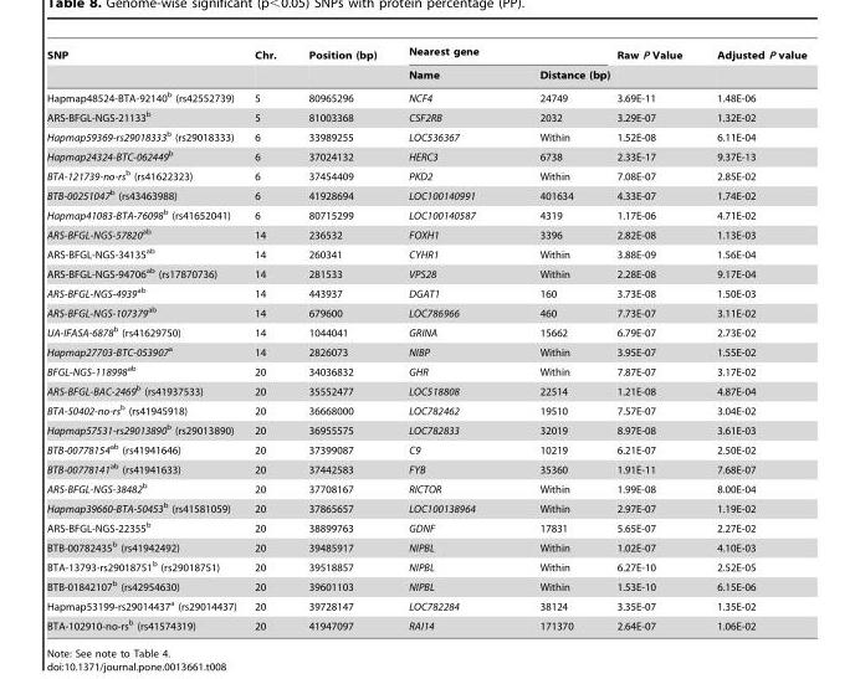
<table><thead><tr><td rowspan="2">SNP</td><td rowspan="2">Chr.</td><td rowspan="2">Position (bp)</td><td colspan="2">Nearest gene</td><td rowspan="2">Raw P Value</td><td rowspan="2">Adjusted P value</td></tr><tr><td>Name</td><td>Distance (bp)</td></tr></thead><tbody><tr><td>Hapmap48524-BTA-92140<sup>b</sup> (rs42552739)</td><td>5</td><td>80965296</td><td>NCF4</td><td>24749</td><td>3.69E-11</td><td>1.48E-06</td></tr><tr><td>ARS-BFGL-NGS-21133<sup>b</sup></td><td>5</td><td>81003368</td><td>CSF2RB</td><td>2032</td><td>3.29E-07</td><td>1.32E-02</td></tr><tr><td>Hapmap59369-rs29018333<sup>b</sup> (rs29018333)</td><td>6</td><td>33989255</td><td>LOC536367</td><td>Within</td><td>1.52E-08</td><td>6.11E-04</td></tr><tr><td>Hapmap24324-BTC-062449<sup>b</sup></td><td>6</td><td>37024132</td><td>HERC3</td><td>6738</td><td>2.33E-17</td><td>9.37E-13</td></tr><tr><td>BTA-121739-no-rs<sup>b</sup> (rs41622323)</td><td>6</td><td>37454409</td><td>PKD2</td><td>Within</td><td>7.08E-07</td><td>2.85E-02</td></tr><tr><td>BTB-00251047<sup>b</sup> (rs43463988)</td><td>6</td><td>41928694</td><td>LOC100140991</td><td>401634</td><td>4.33E-07</td><td>1.74E-02</td></tr><tr><td>Hapmap41083-BTA-76098<sup>b</sup> (rs41652041)</td><td>6</td><td>80715299</td><td>LOC100140587</td><td>4319</td><td>1.17E-06</td><td>4.71E-02</td></tr><tr><td>ARS-BFGL-NGS-57820<sup>ab</sup></td><td>14</td><td>236532</td><td>FOXH1</td><td>3396</td><td>2.82E-08</td><td>1.13E-03</td></tr><tr><td>ARS-BFGL-NGS-34135<sup>ab</sup></td><td>14</td><td>260341</td><td>CYHR1</td><td>Within</td><td>3.88E-09</td><td>1.56E-04</td></tr><tr><td>ARS-BFGL-NGS-94706<sup>ab</sup> (rs17870736)</td><td>14</td><td>281533</td><td>VPS28</td><td>Within</td><td>2.28E-08</td><td>9.17E-04</td></tr><tr><td>ARS-BFGL-NGS-4939<sup>ab</sup></td><td>14</td><td>443937</td><td>DGAT1</td><td>160</td><td>3.73E-08</td><td>1.50E-03</td></tr><tr><td>ARS-BFGL-NGS-107379<sup>ab</sup></td><td>14</td><td>679600</td><td>LOC786966</td><td>460</td><td>7.73E-07</td><td>3.11E-02</td></tr><tr><td>UA-IFASA-6878<sup>b</sup> (rs41629750)</td><td>14</td><td>1044041</td><td>GRINA</td><td>15662</td><td>6.79E-07</td><td>2.73E-02</td></tr><tr><td>Hapmap27703-BTC-053907<sup>a</sup></td><td>14</td><td>2826073</td><td>NIBP</td><td>Within</td><td>3.95E-07</td><td>1.55E-02</td></tr><tr><td>BFGL-NGS-118998<sup>ab</sup></td><td>20</td><td>34036832</td><td>GHR</td><td>Within</td><td>7.87E-07</td><td>3.17E-02</td></tr><tr><td>ARS-BFGL-BAC-2469<sup>b</sup> (rs41937533)</td><td>20</td><td>35552477</td><td>LOC518808</td><td>22514</td><td>1.21E-08</td><td>4.87E-04</td></tr><tr><td>BTA-50402-no-rs<sup>b</sup> (rs41945918)</td><td>20</td><td>36668000</td><td>LOC782462</td><td>19510</td><td>7.57E-07</td><td>3.04E-02</td></tr><tr><td>Hapmap57531-rs29013890<sup>b</sup> (rs29013890)</td><td>20</td><td>36955575</td><td>LOC782833</td><td>32019</td><td>8.97E-08</td><td>3.61E-03</td></tr><tr><td>BTB-00778154<sup>ab</sup> (rs41941646)</td><td>20</td><td>37399087</td><td>C9</td><td>10219</td><td>6.21E-07</td><td>2.50E-02</td></tr><tr><td>BTB-00778141<sup>ab</sup> (rs41941633)</td><td>20</td><td>37442583</td><td>FYB</td><td>35360</td><td>1.91E-11</td><td>7.68E-07</td></tr><tr><td>ARS-BFGL-NGS-38482<sup>b</sup></td><td>20</td><td>37708167</td><td>RICTOR</td><td>Within</td><td>1.99E-08</td><td>8.00E-04</td></tr><tr><td>Hapmap39660-BTA-50453<sup>b</sup> (rs41581059)</td><td>20</td><td>37865657</td><td>LOC100138964</td><td>Within</td><td>2.97E-07</td><td>1.19E-02</td></tr><tr><td>ARS-BFGL-NGS-22355<sup>b</sup></td><td>20</td><td>38899763</td><td>GDNF</td><td>17831</td><td>5.65E-07</td><td>2.27E-02</td></tr><tr><td>BTB-00782435<sup>b</sup> (rs41942492)</td><td>20</td><td>39485917</td><td>NIPBL</td><td>Within</td><td>1.02E-07</td><td>4.10E-03</td></tr><tr><td>BTA-13793-rs29018751<sup>b</sup> (rs29018751)</td><td>20</td><td>39518857</td><td>NIPBL</td><td>Within</td><td>6.27E-10</td><td>2.52E-05</td></tr><tr><td>BTB-01842107<sup>b</sup> (rs42954630)</td><td>20</td><td>39601103</td><td>NIPBL</td><td>Within</td><td>1.53E-10</td><td>6.15E-06</td></tr><tr><td>Hapmap53199-rs29014437<sup>a</sup> (rs29014437)</td><td>20</td><td>39728147</td><td>LOC782284</td><td>38124</td><td>3.35E-07</td><td>1.35E-02</td></tr><tr><td>BTA-102910-no-rs<sup>b</sup> (rs41574319)</td><td>20</td><td>41947097</td><td>RAI14</td><td>171370</td><td>2.64E-07</td><td>1.06E-02</td></tr></tbody></table>